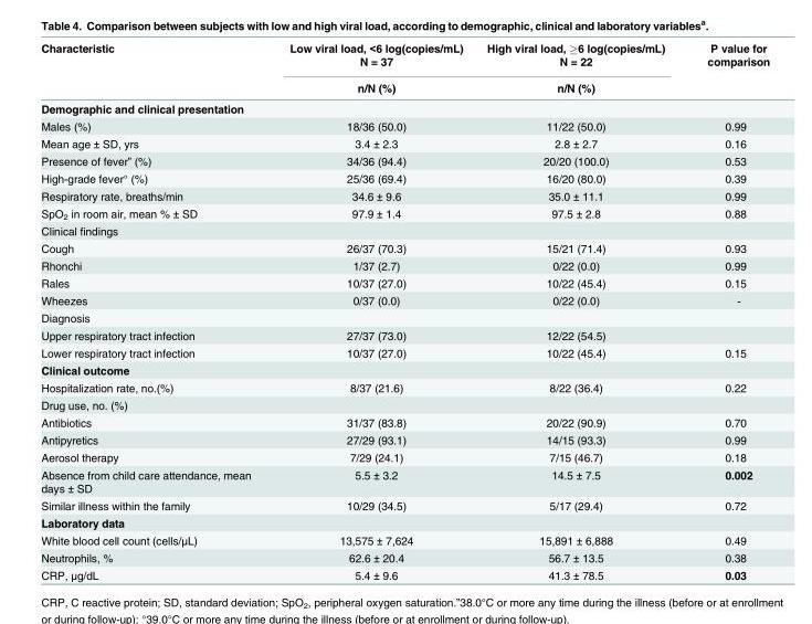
<table><thead><tr><td rowspan="2">Characteristic</td><td rowspan="2">Low viral load, &lt;6 log(copies/mL) N = 37 n/N (%)</td><td rowspan="2">High viral load, ≥6 log(copies/mL) N = 22 n/N (%)</td><td rowspan="2">P value for comparison</td></tr><tr></tr></thead><tbody><tr><td colspan="4">Demographic and clinical presentation</td></tr><tr><td>Males (%)</td><td>18/36 (50.0)</td><td>11/22 (50.0)</td><td>0.99</td></tr><tr><td>Mean age ± SD, yrs</td><td>3.4 ± 2.3</td><td>2.8 ± 2.7</td><td>0.16</td></tr><tr><td>Presence of fever” (%)</td><td>34/36 (94.4)</td><td>20/20 (100.0)</td><td>0.53</td></tr><tr><td>High-grade fever° (%)</td><td>25/36 (69.4)</td><td>16/20 (80.0)</td><td>0.39</td></tr><tr><td>Respiratory rate, breaths/min</td><td>34.6 ± 9.6</td><td>35.0 ± 11.1</td><td>0.99</td></tr><tr><td>SpO<sub>2</sub> in room air, mean % ± SD</td><td>97.9 ± 1.4</td><td>97.5 ± 2.8</td><td>0.88</td></tr><tr><td colspan="4">Clinical findings</td></tr><tr><td>Cough</td><td>26/37 (70.3)</td><td>15/21 (71.4)</td><td>0.93</td></tr><tr><td>Rhonchi</td><td>1/37 (2.7)</td><td>0/22 (0.0)</td><td>0.99</td></tr><tr><td>Rales</td><td>10/37 (27.0)</td><td>10/22 (45.4)</td><td>0.15</td></tr><tr><td>Wheezes</td><td>0/37 (0.0)</td><td>0/22 (0.0)</td><td>-</td></tr><tr><td colspan="4">Diagnosis</td></tr><tr><td>Upper respiratory tract infection</td><td>27/37 (73.0)</td><td>12/22 (54.5)</td><td></td></tr><tr><td>Lower respiratory tract infection</td><td>10/37 (27.0)</td><td>10/22 (45.4)</td><td>0.15</td></tr><tr><td colspan="4">Clinical outcome</td></tr><tr><td>Hospitalization rate, no.(%)</td><td>8/37 (21.6)</td><td>8/22 (36.4)</td><td>0.22</td></tr><tr><td colspan="4">Drug use, no. (%)</td></tr><tr><td>Antibiotics</td><td>31/37 (83.8)</td><td>20/22 (90.9)</td><td>0.70</td></tr><tr><td>Antipyretics</td><td>27/29 (93.1)</td><td>14/15 (93.3)</td><td>0.99</td></tr><tr><td>Aerosol therapy</td><td>7/29 (24.1)</td><td>7/15 (46.7)</td><td>0.18</td></tr><tr><td>Absence from child care attendance, mean days ± SD</td><td>5.5 ± 3.2</td><td>14.5 ± 7.5</td><td>0.002</td></tr><tr><td>Similar illness within the family</td><td>10/29 (34.5)</td><td>5/17 (29.4)</td><td>0.72</td></tr><tr><td colspan="4">Laboratory data</td></tr><tr><td>White blood cell count (cells/μL)</td><td>13,575 ± 7,624</td><td>15,891 ± 6,888</td><td>0.49</td></tr><tr><td>Neutrophils, %</td><td>62.6 ± 20.4</td><td>56.7 ± 13.5</td><td>0.38</td></tr><tr><td>CRP, μg/dL</td><td>5.4 ± 9.6</td><td>41.3 ± 78.5</td><td>0.03</td></tr></tbody></table>